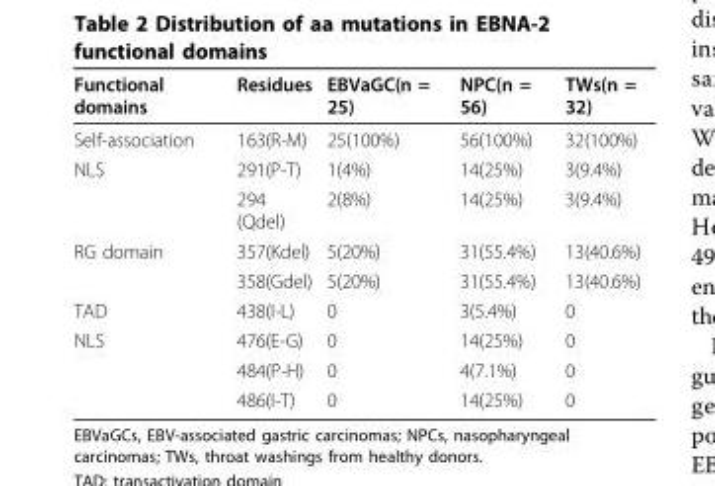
<table><thead><tr><td>Functional domains</td><td>Residues</td><td>EBVaGC(n = 25)</td><td>NPC(n = 56)</td><td>TWs(n = 32)</td></tr></thead><tbody><tr><td>Self-association</td><td>163(R-M)</td><td>25(100%)</td><td>56(100%)</td><td>32(100%)</td></tr><tr><td rowspan="2">NLS</td><td>291(P-T)</td><td>1(4%)</td><td>14(25%)</td><td>3(9.4%)</td></tr><tr><td>294 (Qdel)</td><td>2(8%)</td><td>14(25%)</td><td>3(9.4%)</td></tr><tr><td rowspan="2">RG domain</td><td>357(Kdel)</td><td>5(20%)</td><td>31(55.4%)</td><td>13(40.6%)</td></tr><tr><td>358(Gdel)</td><td>5(20%)</td><td>31(55.4%)</td><td>13(40.6%)</td></tr><tr><td>TAD</td><td>438(I-L)</td><td>0</td><td>3(5.4%)</td><td>0</td></tr><tr><td rowspan="3">NLS</td><td>476(E-G)</td><td>0</td><td>14(25%)</td><td>0</td></tr><tr><td>484(P-H)</td><td>0</td><td>4(7.1%)</td><td>0</td></tr><tr><td>486(I-T)</td><td>0</td><td>14(25%)</td><td>0</td></tr></tbody></table>